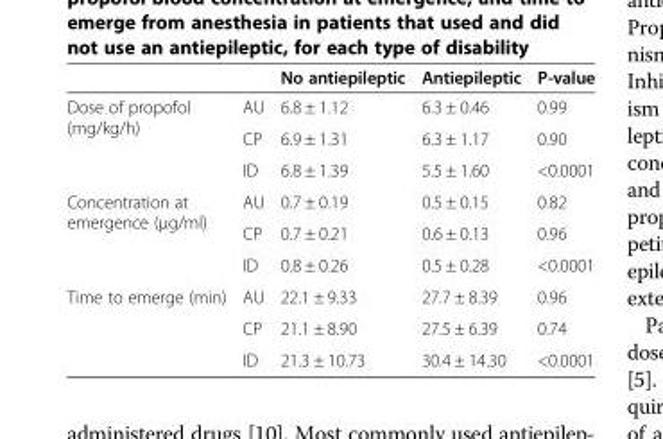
<table><thead><tr><td></td><td></td><td>No antiepileptic</td><td>Antiepileptic</td><td>P-value</td></tr></thead><tbody><tr><td rowspan="3">Dose of propofol (mg/kg/h)</td><td>AU</td><td>6.8 ± 1.12</td><td>6.3 ± 0.46</td><td>0.99</td></tr><tr><td>CP</td><td>6.9 ± 1.31</td><td>6.3 ± 1.17</td><td>0.90</td></tr><tr><td>ID</td><td>6.8 ± 1.39</td><td>5.5 ± 1.60</td><td>&lt;0.0001</td></tr><tr><td rowspan="3">Concentration at emergence (μg/ml)</td><td>AU</td><td>0.7 ± 0.19</td><td>0.5 ± 0.15</td><td>0.82</td></tr><tr><td>CP</td><td>0.7 ± 0.21</td><td>0.6 ± 0.13</td><td>0.96</td></tr><tr><td>ID</td><td>0.8 ± 0.26</td><td>0.5 ± 0.28</td><td>&lt;0.0001</td></tr><tr><td rowspan="3">Time to emerge (min)</td><td>AU</td><td>22.1 ± 9.33</td><td>27.7 ± 8.39</td><td>0.96</td></tr><tr><td>CP</td><td>21.1 ± 8.90</td><td>27.5 ± 6.39</td><td>0.74</td></tr><tr><td>ID</td><td>21.3 ± 10.73</td><td>30.4 ± 14.30</td><td>&lt;0.0001</td></tr></tbody></table>